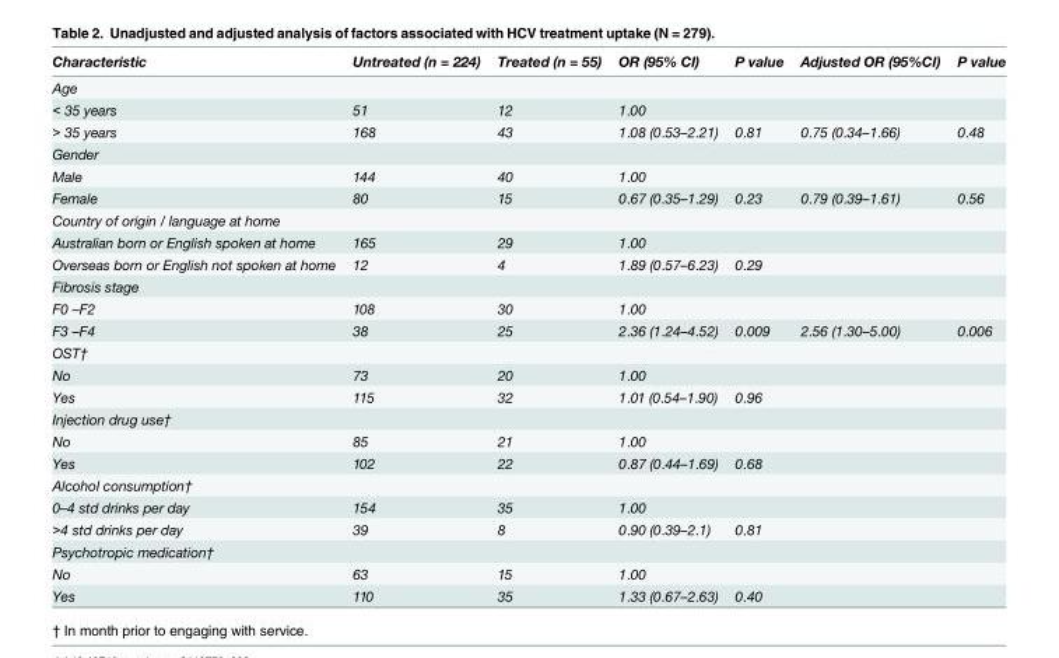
<table><thead><tr><td>Characteristic</td><td>Untreated (n = 224)</td><td>Treated (n = 55)</td><td>OR (95% CI)</td><td>P value</td><td>Adjusted OR (95%CI)</td><td>P value</td></tr></thead><tbody><tr><td colspan="7">Age</td></tr><tr><td>&lt; 35 years</td><td>51</td><td>12</td><td>1.00</td><td></td><td></td><td></td></tr><tr><td>&gt; 35 years</td><td>168</td><td>43</td><td>1.08 (0.53–2.21)</td><td>0.81</td><td>0.75 (0.34–1.66)</td><td>0.48</td></tr><tr><td colspan="7">Gender</td></tr><tr><td>Male</td><td>144</td><td>40</td><td>1.00</td><td></td><td></td><td></td></tr><tr><td>Female</td><td>80</td><td>15</td><td>0.67 (0.35–1.29)</td><td>0.23</td><td>0.79 (0.39–1.61)</td><td>0.56</td></tr><tr><td colspan="7">Country of origin / language at home</td></tr><tr><td>Australian born or English spoken at home</td><td>165</td><td>29</td><td>1.00</td><td></td><td></td><td></td></tr><tr><td>Overseas born or English not spoken at home</td><td>12</td><td>4</td><td>1.89 (0.57–6.23)</td><td>0.29</td><td></td><td></td></tr><tr><td colspan="7">Fibrosis stage</td></tr><tr><td>F0 –F2</td><td>108</td><td>30</td><td>1.00</td><td></td><td></td><td></td></tr><tr><td>F3 –F4</td><td>38</td><td>25</td><td>2.36 (1.24–4.52)</td><td>0.009</td><td>2.56 (1.30–5.00)</td><td>0.006</td></tr><tr><td colspan="7">OST†</td></tr><tr><td>No</td><td>73</td><td>20</td><td>1.00</td><td></td><td></td><td></td></tr><tr><td>Yes</td><td>115</td><td>32</td><td>1.01 (0.54–1.90)</td><td>0.96</td><td></td><td></td></tr><tr><td colspan="7">Injection drug use†</td></tr><tr><td>No</td><td>85</td><td>21</td><td>1.00</td><td></td><td></td><td></td></tr><tr><td>Yes</td><td>102</td><td>22</td><td>0.87 (0.44–1.69)</td><td>0.68</td><td></td><td></td></tr><tr><td colspan="7">Alcohol consumption†</td></tr><tr><td>0–4 std drinks per day</td><td>154</td><td>35</td><td>1.00</td><td></td><td></td><td></td></tr><tr><td>&gt;4 std drinks per day</td><td>39</td><td>8</td><td>0.90 (0.39–2.1)</td><td>0.81</td><td></td><td></td></tr><tr><td colspan="7">Psychotropic medication†</td></tr><tr><td>No</td><td>63</td><td>15</td><td>1.00</td><td></td><td></td><td></td></tr><tr><td>Yes</td><td>110</td><td>35</td><td>1.33 (0.67–2.63)</td><td>0.40</td><td></td><td></td></tr></tbody></table>